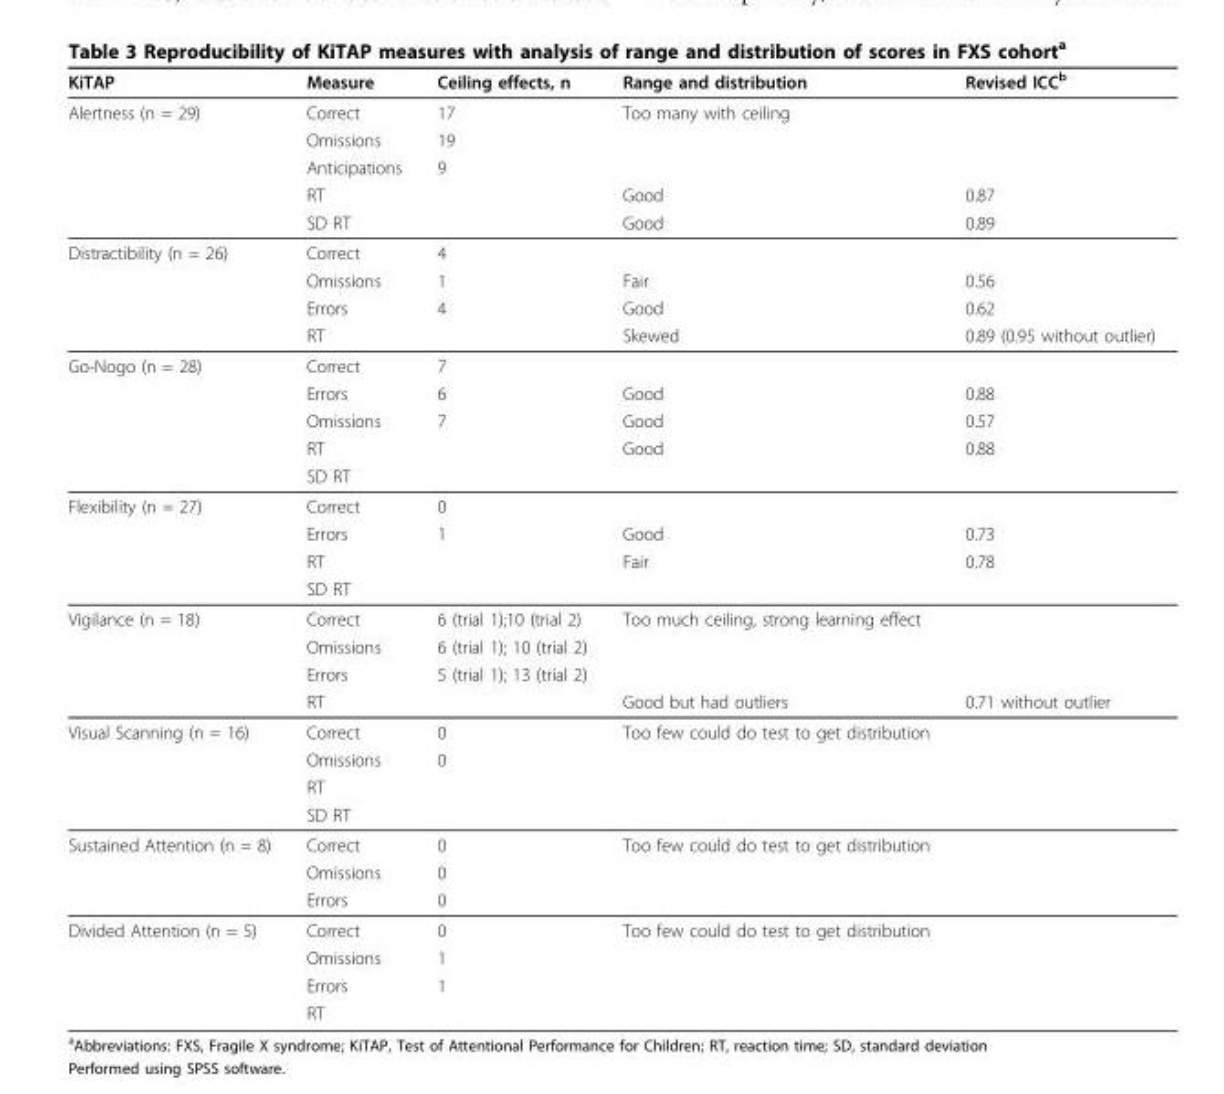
<table><thead><tr><td>KiTAP</td><td>Measure</td><td>Ceiling effects, n</td><td>Range and distribution</td><td>Revised ICC<sup>b</sup></td></tr></thead><tbody><tr><td rowspan="5">Alertness (n = 29)</td><td>Correct</td><td>17</td><td>Too many with ceiling</td><td></td></tr><tr><td>Omissions</td><td>19</td><td></td><td></td></tr><tr><td>Anticipations</td><td>9</td><td></td><td></td></tr><tr><td>RT</td><td></td><td>Good</td><td>0.87</td></tr><tr><td>SD RT</td><td></td><td>Good</td><td>0.89</td></tr><tr><td rowspan="4">Distractibility (n = 26)</td><td>Correct</td><td>4</td><td></td><td></td></tr><tr><td>Omissions</td><td>1</td><td>Fair</td><td>0.56</td></tr><tr><td>Errors</td><td>4</td><td>Good</td><td>0.62</td></tr><tr><td>RT</td><td></td><td>Skewed</td><td>0.89 (0.95 without outlier)</td></tr><tr><td rowspan="5">Go-Nogo (n = 28)</td><td>Correct</td><td>7</td><td></td><td></td></tr><tr><td>Errors</td><td>6</td><td>Good</td><td>0.88</td></tr><tr><td>Omissions</td><td>7</td><td>Good</td><td>0.57</td></tr><tr><td>RT</td><td></td><td>Good</td><td>0.88</td></tr><tr><td>SD RT</td><td></td><td></td><td></td></tr><tr><td rowspan="4">Flexibility (n = 27)</td><td>Correct</td><td>0</td><td></td><td></td></tr><tr><td>Errors</td><td>1</td><td>Good</td><td>0.73</td></tr><tr><td>RT</td><td></td><td>Fair</td><td>0.78</td></tr><tr><td>SD RT</td><td></td><td></td><td></td></tr><tr><td rowspan="4">Vigilance (n = 18)</td><td>Correct</td><td>6 (trial 1);10 (trial 2)</td><td>Too much ceiling, strong learning effect</td><td></td></tr><tr><td>Omissions</td><td>6 (trial 1); 10 (trial 2)</td><td></td><td></td></tr><tr><td>Errors</td><td>5 (trial 1); 13 (trial 2)</td><td></td><td></td></tr><tr><td>RT</td><td></td><td>Good but had outliers</td><td>0.71 without outlier</td></tr><tr><td rowspan="4">Visual Scanning (n = 16)</td><td>Correct</td><td>0</td><td>Too few could do test to get distribution</td><td></td></tr><tr><td>Omissions</td><td>0</td><td></td><td></td></tr><tr><td>RT</td><td></td><td></td><td></td></tr><tr><td>SD RT</td><td></td><td></td><td></td></tr><tr><td rowspan="3">Sustained Attention (n = 8)</td><td>Correct</td><td>0</td><td>Too few could do test to get distribution</td><td></td></tr><tr><td>Omissions</td><td>0</td><td></td><td></td></tr><tr><td>Errors</td><td>0</td><td></td><td></td></tr><tr><td rowspan="4">Divided Attention (n = 5)</td><td>Correct</td><td>0</td><td>Too few could do test to get distribution</td><td></td></tr><tr><td>Omissions</td><td>1</td><td></td><td></td></tr><tr><td>Errors</td><td>1</td><td></td><td></td></tr><tr><td>RT</td><td></td><td></td><td></td></tr></tbody></table>